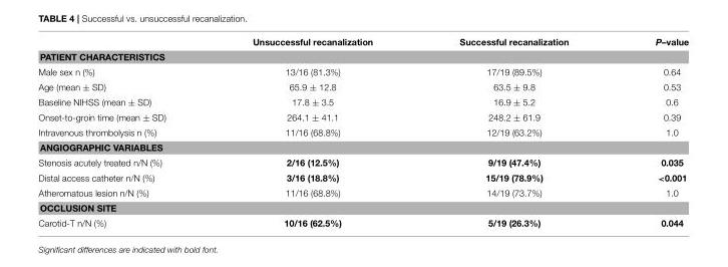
<table><thead><tr><td></td><td>Unsuccessful recanalization</td><td>Successful recanalization</td><td>P–value</td></tr></thead><tbody><tr><td colspan="4">PATIENT CHARACTERISTICS</td></tr><tr><td>Male sex n (%)</td><td>13/16 (81.3%)</td><td>17/19 (89.5%)</td><td>0.64</td></tr><tr><td>Age (mean ± SD)</td><td>65.9 ± 12.8</td><td>63.5 ± 9.8</td><td>0.53</td></tr><tr><td>Baseline NIHSS (mean ± SD)</td><td>17.8 ± 3.5</td><td>16.9 ± 5.2</td><td>0.6</td></tr><tr><td>Onset-to-groin time (mean ± SD)</td><td>264.1 ± 41.1</td><td>248.2 ± 61.9</td><td>0.39</td></tr><tr><td>Intravenous thrombolysis n (%)</td><td>11/16 (68.8%)</td><td>12/19 (63.2%)</td><td>1.0</td></tr><tr><td colspan="4">ANGIOGRAPHIC VARIABLES</td></tr><tr><td>Stenosis acutely treated n/N (%)</td><td>2/16 (12.5%)</td><td>9/19 (47.4%)</td><td>0.035</td></tr><tr><td>Distal access catheter n/N (%)</td><td>3/16 (18.8%)</td><td>15/19 (78.9%)</td><td>&lt;0.001</td></tr><tr><td>Atheromatous lesion n/N (%)</td><td>11/16 (68.8%)</td><td>14/19 (73.7%)</td><td>1.0</td></tr><tr><td colspan="4">OCCLUSION SITE</td></tr><tr><td>Carotid-T n/N (%)</td><td>10/16 (62.5%)</td><td>5/19 (26.3%)</td><td>0.044</td></tr></tbody></table>